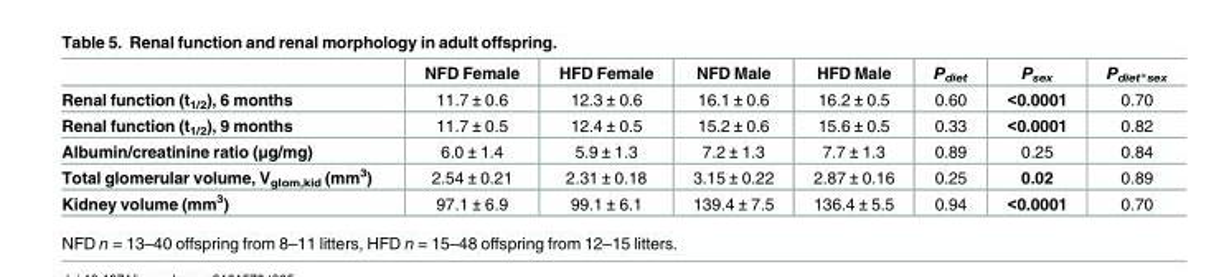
<table><thead><tr><td></td><td>NFD Female</td><td>HFD Female</td><td>NFD Male</td><td>HFD Male</td><td>P<sub>diet</sub></td><td>P<sub>sex</sub></td><td>P<sub>diet*sex</sub></td></tr></thead><tbody><tr><td>Renal function (t<sub>1/2</sub>), 6 months</td><td>11.7 ± 0.6</td><td>12.3 ± 0.6</td><td>16.1 ± 0.6</td><td>16.2 ± 0.5</td><td>0.60</td><td>&lt;0.0001</td><td>0.70</td></tr><tr><td>Renal function (t<sub>1/2</sub>), 9 months</td><td>11.7 ± 0.5</td><td>12.4 ± 0.5</td><td>15.2 ± 0.6</td><td>15.6 ± 0.5</td><td>0.33</td><td>&lt;0.0001</td><td>0.82</td></tr><tr><td>Albumin/creatinine ratio (μg/mg)</td><td>6.0 ± 1.4</td><td>5.9 ± 1.3</td><td>7.2 ± 1.3</td><td>7.7 ± 1.3</td><td>0.89</td><td>0.25</td><td>0.84</td></tr><tr><td>Total glomerular volume, V<sub>glom,kid</sub> (mm<sup>3</sup>)</td><td>2.54 ± 0.21</td><td>2.31 ± 0.18</td><td>3.15 ± 0.22</td><td>2.87 ± 0.16</td><td>0.25</td><td>0.02</td><td>0.89</td></tr><tr><td>Kidney volume (mm<sup>3</sup>)</td><td>97.1 ± 6.9</td><td>99.1 ± 6.1</td><td>139.4 ± 7.5</td><td>136.4 ± 5.5</td><td>0.94</td><td>&lt;0.0001</td><td>0.70</td></tr></tbody></table>